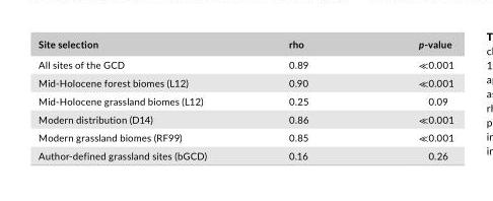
<table><thead><tr><td>Site selection</td><td>rho</td><td>p- value</td></tr></thead><tbody><tr><td>All sites of the GCD</td><td>0.89</td><td>≪0.001</td></tr><tr><td>Mid- Holocene forest biomes (L12)</td><td>0.90</td><td>≪0.001</td></tr><tr><td>Mid- Holocene grassland biomes (L12)</td><td>0.25</td><td>0.09</td></tr><tr><td>Modern distribution (D14)</td><td>0.86</td><td>≪0.001</td></tr><tr><td>Modern grassland biomes (RF99)</td><td>0.85</td><td>≪0.001</td></tr><tr><td>Author- defined grassland sites (bGCD)</td><td>0.16</td><td>0.26</td></tr></tbody></table>